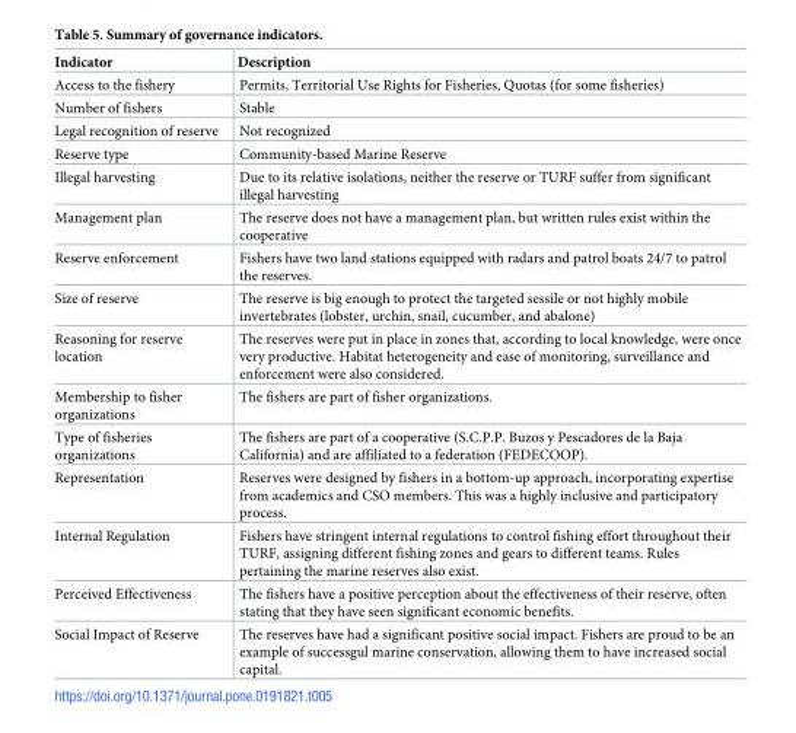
<table><thead><tr><td>Indicator</td><td>Description</td></tr></thead><tbody><tr><td>Access to the fishery</td><td>Permits, Territorial Use Rights for Fisheries, Quotas (for some fisheries)</td></tr><tr><td>Number of fishers</td><td>Stable</td></tr><tr><td>Legal recognition of reserve</td><td>Not recognized</td></tr><tr><td>Reserve type</td><td>Community-based Marine Reserve</td></tr><tr><td>Illegal harvesting</td><td>Due to its relative isolations, neither the reserve or TURF suffer from significant illegal harvesting</td></tr><tr><td>Management plan</td><td>The reserve does not have a management plan, but written rules exist within the cooperative</td></tr><tr><td>Reserve enforcement</td><td>Fishers have two land stations equipped with radars and patrol boats 24/7 to patrol the reserves.</td></tr><tr><td>Size of reserve</td><td>The reserve is big enough to protect the targeted sessile or not highly mobile invertebrates (lobster, urchin, snail, cucumber, and abalone)</td></tr><tr><td>Reasoning for reserve location</td><td>The reserves were put in place in zones that, according to local knowledge, were once very productive. Habitat heterogeneity and ease of monitoring, surveillance and enforcement were also considered.</td></tr><tr><td>Membership to fisher organizations</td><td>The fishers are part of fisher organizations.</td></tr><tr><td>Type of fisheries organizations</td><td>The fishers are part of a cooperative (S.C.P.P. Buzos y Pescadores de la Baja California) and are affiliated to a federation (FEDECOOP).</td></tr><tr><td>Representation</td><td>Reserves were designed by fishers in a bottom-up approach, incorporating expertise from academics and CSO members. This was a highly inclusive and participatory process.</td></tr><tr><td>Internal Regulation</td><td>Fishers have stringent internal regulations to control fishing effort throughout their TURF, assigning different fishing zones and gears to different teams. Rules pertaining the marine reserves also exist.</td></tr><tr><td>Perceived Effectiveness</td><td>The fishers have a positive perception about the effectiveness of their reserve, often stating that they have seen significant economic benefits.</td></tr><tr><td>Social Impact of Reserve</td><td>The reserves have had a significant positive social impact. Fishers are proud to be an example of successgul marine conservation, allowing them to have increased social capital.</td></tr></tbody></table>